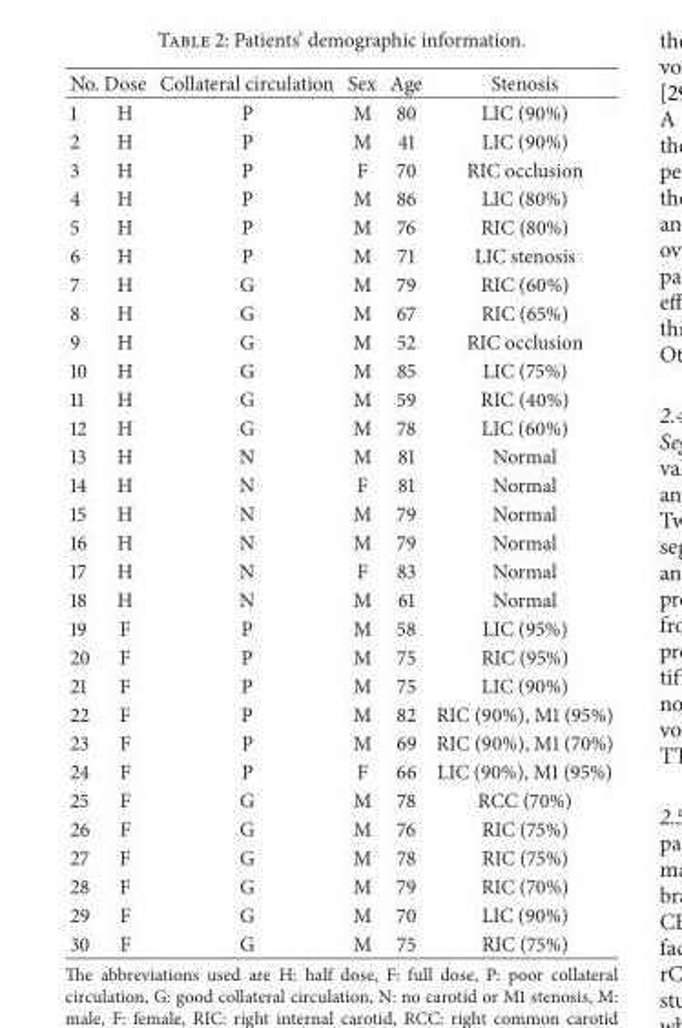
<table><thead><tr><td>No.</td><td>Dose</td><td>Collateral circulation</td><td>Sex</td><td>Age</td><td>Stenosis</td></tr></thead><tbody><tr><td>1</td><td>H</td><td>P</td><td>M</td><td>80</td><td>LIC (90%)</td></tr><tr><td>2</td><td>H</td><td>P</td><td>M</td><td>41</td><td>LIC (90%)</td></tr><tr><td>3</td><td>H</td><td>P</td><td>F</td><td>70</td><td>RIC occlusion</td></tr><tr><td>4</td><td>H</td><td>P</td><td>M</td><td>86</td><td>LIC (80%)</td></tr><tr><td>5</td><td>H</td><td>P</td><td>M</td><td>76</td><td>RIC (80%)</td></tr><tr><td>6</td><td>H</td><td>P</td><td>M</td><td>71</td><td>LIC stenosis</td></tr><tr><td>7</td><td>H</td><td>G</td><td>M</td><td>79</td><td>RIC (60%)</td></tr><tr><td>8</td><td>H</td><td>G</td><td>M</td><td>67</td><td>RIC (65%)</td></tr><tr><td>9</td><td>H</td><td>G</td><td>M</td><td>52</td><td>RIC occlusion</td></tr><tr><td>10</td><td>H</td><td>G</td><td>M</td><td>85</td><td>LIC (75%)</td></tr><tr><td>11</td><td>H</td><td>G</td><td>M</td><td>59</td><td>RIC (40%)</td></tr><tr><td>12</td><td>H</td><td>G</td><td>M</td><td>78</td><td>LIC (60%)</td></tr><tr><td>13</td><td>H</td><td>N</td><td>M</td><td>81</td><td>Normal</td></tr><tr><td>14</td><td>H</td><td>N</td><td>F</td><td>81</td><td>Normal</td></tr><tr><td>15</td><td>H</td><td>N</td><td>M</td><td>79</td><td>Normal</td></tr><tr><td>16</td><td>H</td><td>N</td><td>M</td><td>79</td><td>Normal</td></tr><tr><td>17</td><td>H</td><td>N</td><td>F</td><td>83</td><td>Normal</td></tr><tr><td>18</td><td>H</td><td>N</td><td>M</td><td>61</td><td>Normal</td></tr><tr><td>19</td><td>F</td><td>P</td><td>M</td><td>58</td><td>LIC (95%)</td></tr><tr><td>20</td><td>F</td><td>P</td><td>M</td><td>75</td><td>RIC (95%)</td></tr><tr><td>21</td><td>F</td><td>P</td><td>M</td><td>75</td><td>LIC (90%)</td></tr><tr><td>22</td><td>F</td><td>P</td><td>M</td><td>82</td><td>RIC (90%), M1 (95%)</td></tr><tr><td>23</td><td>F</td><td>P</td><td>M</td><td>69</td><td>RIC (90%), M1 (70%)</td></tr><tr><td>24</td><td>F</td><td>P</td><td>F</td><td>66</td><td>LIC (90%), M1 (95%)</td></tr><tr><td>25</td><td>F</td><td>G</td><td>M</td><td>78</td><td>RCC (70%)</td></tr><tr><td>26</td><td>F</td><td>G</td><td>M</td><td>76</td><td>RIC (75%)</td></tr><tr><td>27</td><td>F</td><td>G</td><td>M</td><td>78</td><td>RIC (75%)</td></tr><tr><td>28</td><td>F</td><td>G</td><td>M</td><td>79</td><td>RIC (70%)</td></tr><tr><td>29</td><td>F</td><td>G</td><td>M</td><td>70</td><td>LIC (90%)</td></tr><tr><td>30</td><td>F</td><td>G</td><td>M</td><td>75</td><td>RIC (75%)</td></tr></tbody></table>